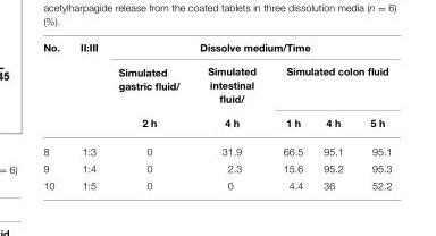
<table><thead><tr><td rowspan="3">No.</td><td rowspan="3">II:III</td><td colspan="5">Dissolve medium/Time</td></tr><tr><td rowspan="2">Simulated gastric fluid/ 2 h</td><td rowspan="2">Simulated intestinal fluid/ 4 h</td><td colspan="3">Simulated colon fluid</td></tr><tr><td>1 h</td><td>4 h</td><td>5 h</td></tr></thead><tbody><tr><td>8</td><td>1:3</td><td>0</td><td>31.9</td><td>66.5</td><td>95.1</td><td>95.1</td></tr><tr><td>9</td><td>1:4</td><td>0</td><td>2.3</td><td>15.6</td><td>95.2</td><td>95.3</td></tr><tr><td>10</td><td>1:5</td><td>0</td><td>0</td><td>4.4</td><td>36</td><td>52.2</td></tr></tbody></table>